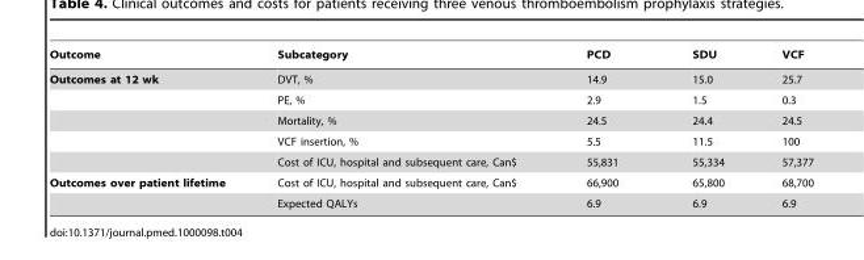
<table><thead><tr><td>Outcome</td><td>Subcategory</td><td>PCD</td><td>SDU</td><td>VCF</td></tr></thead><tbody><tr><td rowspan="5">Outcomes at 12 wk</td><td>DVT, %</td><td>14.9</td><td>15.0</td><td>25.7</td></tr><tr><td>PE, %</td><td>2.9</td><td>1.5</td><td>0.3</td></tr><tr><td>Mortality, %</td><td>24.5</td><td>24.4</td><td>24.5</td></tr><tr><td>VCF insertion, %</td><td>5.5</td><td>11.5</td><td>100</td></tr><tr><td>Cost of ICU, hospital and subsequent care, Can$</td><td>55,831</td><td>55,334</td><td>57,377</td></tr><tr><td rowspan="2">Outcomes over patient lifetime</td><td>Cost of ICU, hospital and subsequent care, Can$</td><td>66,900</td><td>65,800</td><td>68,700</td></tr><tr><td>Expected QALYs</td><td>6.9</td><td>6.9</td><td>6.9</td></tr></tbody></table>